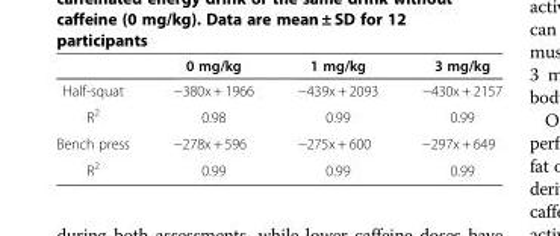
<table><thead><tr><td></td><td>0 mg/kg</td><td>1 mg/kg</td><td>3 mg/kg</td></tr></thead><tbody><tr><td>Half-squat</td><td>−380x + 1966</td><td>−439x + 2093</td><td>−430x + 2157</td></tr><tr><td>R<sup>2</sup></td><td>0.98</td><td>0.99</td><td>0.99</td></tr><tr><td>Bench press</td><td>−278x + 596</td><td>−275x + 600</td><td>−297x + 649</td></tr><tr><td>R<sup>2</sup></td><td>0.99</td><td>0.99</td><td>0.99</td></tr></tbody></table>